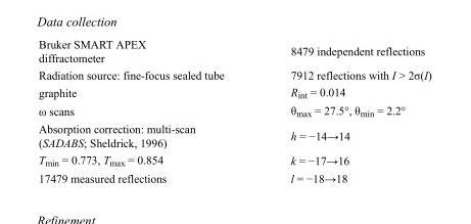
<table><tbody><tr><td>Bruker SMART APEX diffractometer</td><td>8479 independent reflections</td></tr><tr><td>Radiation source: fine-focus sealed tube</td><td>7912 reflections with I &gt; 2σ(I)</td></tr><tr><td>graphite</td><td>R<sub>int</sub> = 0.014</td></tr><tr><td>ω scans</td><td>θ<sub>max</sub> = 27.5°, θ<sub>min</sub> = 2.2°</td></tr><tr><td>Absorption correction: multi-scan (SADABS; Sheldrick, 1996)</td><td>h = −14→14</td></tr><tr><td>T<sub>min</sub> = 0.773, T<sub>max</sub> = 0.854</td><td>k = −17→16</td></tr><tr><td>17479 measured reflections</td><td>l = −18→18</td></tr></tbody></table>